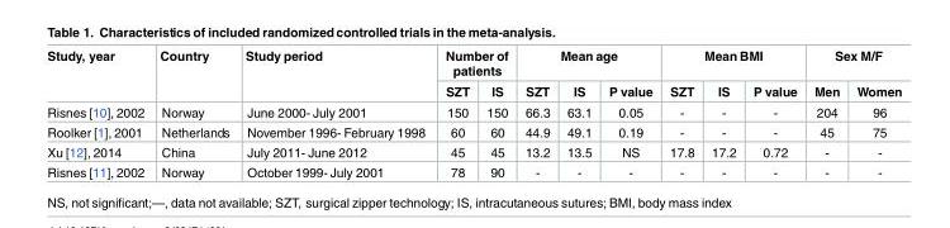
<table><thead><tr><td rowspan="2">Study, year</td><td rowspan="2">Country</td><td rowspan="2">Study period</td><td colspan="2">Number of patients</td><td colspan="3">Mean age</td><td colspan="3">Mean BMI</td><td colspan="2">Sex M/F</td></tr><tr><td>SZT</td><td>IS</td><td>SZT</td><td>IS</td><td>P value</td><td>SZT</td><td>IS</td><td>P value</td><td>Men</td><td>Women</td></tr></thead><tbody><tr><td>Risnes [10], 2002</td><td>Norway</td><td>June 2000- July 2001</td><td>150</td><td>150</td><td>66.3</td><td>63.1</td><td>0.05</td><td>-</td><td>-</td><td>-</td><td>204</td><td>96</td></tr><tr><td>Roolker [1], 2001</td><td>Netherlands</td><td>November 1996- February 1998</td><td>60</td><td>60</td><td>44.9</td><td>49.1</td><td>0.19</td><td>-</td><td>-</td><td>-</td><td>45</td><td>75</td></tr><tr><td>Xu [12], 2014</td><td>China</td><td>July 2011- June 2012</td><td>45</td><td>45</td><td>13.2</td><td>13.5</td><td>NS</td><td>17.8</td><td>17.2</td><td>0.72</td><td>-</td><td>-</td></tr><tr><td>Risnes [11], 2002</td><td>Norway</td><td>October 1999- July 2001</td><td>78</td><td>90</td><td>-</td><td>-</td><td>-</td><td>-</td><td>-</td><td>-</td><td>-</td><td>-</td></tr></tbody></table>